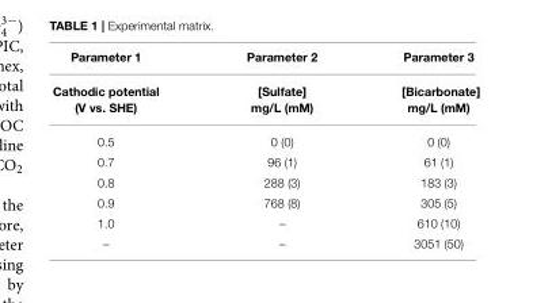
<table><thead><tr><td>Parameter 1</td><td>Parameter 2</td><td>Parameter 3</td></tr></thead><tbody><tr><td>Cathodic potential (V vs. SHE)</td><td>[Sulfate] mg/L (mM)</td><td>[Bicarbonate] mg/L (mM)</td></tr><tr><td>0.5</td><td>0 (0)</td><td>0 (0)</td></tr><tr><td>0.7</td><td>96 (1)</td><td>61 (1)</td></tr><tr><td>0.8</td><td>288 (3)</td><td>183 (3)</td></tr><tr><td>0.9</td><td>768 (8)</td><td>305 (5)</td></tr><tr><td>1.0</td><td>–</td><td>610 (10)</td></tr><tr><td>–</td><td>–</td><td>3051 (50)</td></tr></tbody></table>